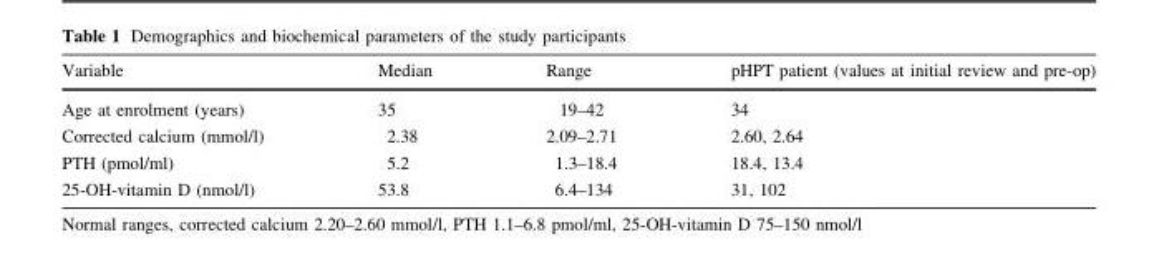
<table><thead><tr><td>Variable</td><td>Median</td><td>Range</td><td>pHPT patient (values at initial review and pre-op)</td></tr></thead><tbody><tr><td>Age at enrolment (years)</td><td>35</td><td>19–42</td><td>34</td></tr><tr><td>Corrected calcium (mmol/l)</td><td>2.38</td><td>2.09–2.71</td><td>2.60, 2.64</td></tr><tr><td>PTH (pmol/ml)</td><td>5.2</td><td>1.3–18.4</td><td>18.4, 13.4</td></tr><tr><td>25-OH-vitamin D (nmol/l)</td><td>53.8</td><td>6.4–134</td><td>31, 102</td></tr></tbody></table>